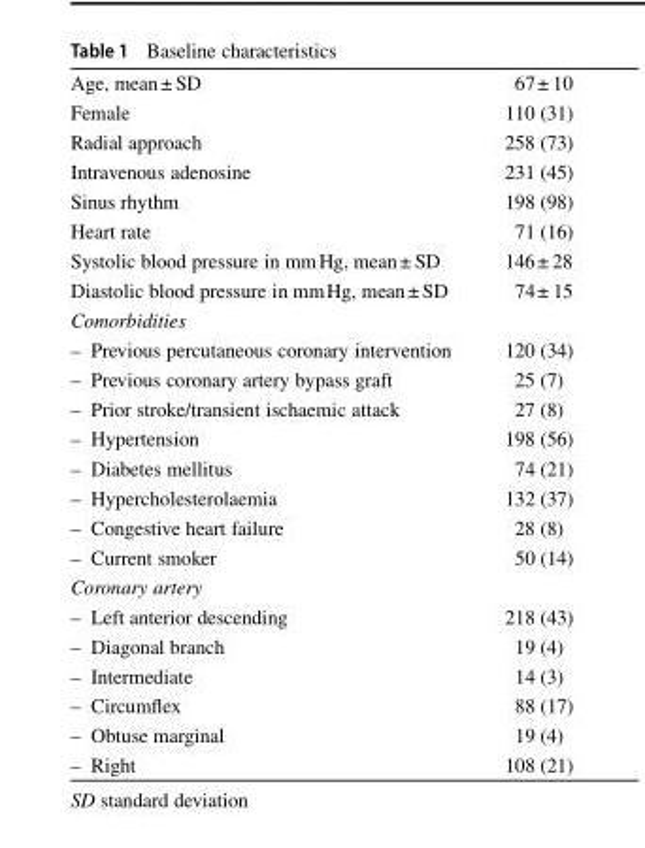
<table><tbody><tr><td>Age, mean± SD</td><td>67± 10</td></tr><tr><td>Female</td><td>110 (31)</td></tr><tr><td>Radial approach</td><td>258 (73)</td></tr><tr><td>Intravenous adenosine</td><td>231 (45)</td></tr><tr><td>Sinus rhythm</td><td>198 (98)</td></tr><tr><td>Heart rate</td><td>71 (16)</td></tr><tr><td>Systolic blood pressure in mmHg, mean± SD</td><td>146± 28</td></tr><tr><td>Diastolic blood pressure in mmHg, mean± SD</td><td>74± 15</td></tr><tr><td colspan="2">Comorbidities</td></tr><tr><td>– Previous percutaneous coronary intervention</td><td>120 (34)</td></tr><tr><td>– Previous coronary artery bypass graft</td><td>25 (7)</td></tr><tr><td>– Prior stroke/transient ischaemic attack</td><td>27 (8)</td></tr><tr><td>– Hypertension</td><td>198 (56)</td></tr><tr><td>– Diabetes mellitus</td><td>74 (21)</td></tr><tr><td>– Hypercholesterolaemia</td><td>132 (37)</td></tr><tr><td>– Congestive heart failure</td><td>28 (8)</td></tr><tr><td>– Current smoker</td><td>50 (14)</td></tr><tr><td colspan="2">Coronary artery</td></tr><tr><td>– Left anterior descending</td><td>218 (43)</td></tr><tr><td>– Diagonal branch</td><td>19 (4)</td></tr><tr><td>– Intermediate</td><td>14 (3)</td></tr><tr><td>– Circumflex</td><td>88 (17)</td></tr><tr><td>– Obtuse marginal</td><td>19 (4)</td></tr><tr><td>– Right</td><td>108 (21)</td></tr></tbody></table>